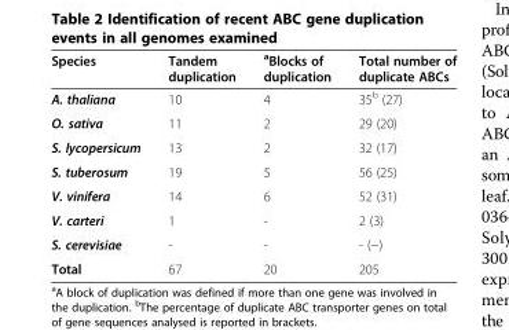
<table><thead><tr><td>Species</td><td>Tandem duplication</td><td><sup>a</sup>Blocks of duplication</td><td>Total number of duplicate ABCs</td></tr></thead><tbody><tr><td>A. thaliana</td><td>10</td><td>4</td><td>35<sup>b</sup> (27)</td></tr><tr><td>O. sativa</td><td>11</td><td>2</td><td>29 (20)</td></tr><tr><td>S. lycopersicum</td><td>13</td><td>2</td><td>32 (17)</td></tr><tr><td>S. tuberosum</td><td>19</td><td>5</td><td>56 (25)</td></tr><tr><td>V. vinifera</td><td>14</td><td>6</td><td>52 (31)</td></tr><tr><td>V. carteri</td><td>1</td><td>-</td><td>2 (3)</td></tr><tr><td>S. cerevisiae</td><td>-</td><td>-</td><td>- (−)</td></tr><tr><td>Total</td><td>67</td><td>20</td><td>205</td></tr></tbody></table>